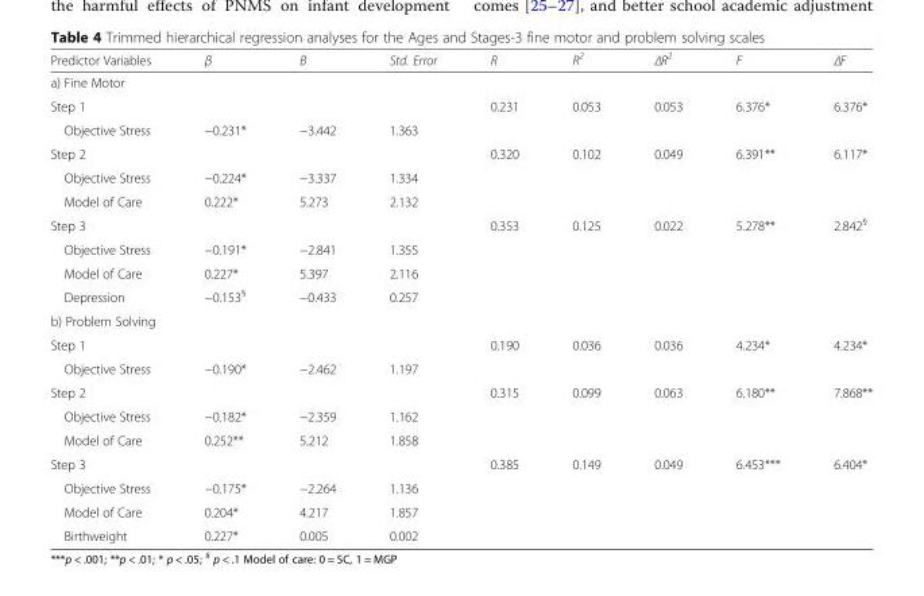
<table><thead><tr><td>Predictor Variables</td><td>β</td><td>B</td><td>Std. Error</td><td>R</td><td>R<sup>2</sup></td><td>ΔR2</td><td>F</td><td>ΔF</td></tr></thead><tbody><tr><td colspan="9">a) Fine Motor</td></tr><tr><td>Step 1</td><td></td><td></td><td></td><td>0.231</td><td>0.053</td><td>0.053</td><td>6.376*</td><td>6.376*</td></tr><tr><td>Objective Stress</td><td>−0.231*</td><td>−3.442</td><td>1.363</td><td></td><td></td><td></td><td></td><td></td></tr><tr><td>Step 2</td><td></td><td></td><td></td><td>0.320</td><td>0.102</td><td>0.049</td><td>6.391**</td><td>6.117*</td></tr><tr><td>Objective Stress</td><td>−0.224*</td><td>−3.337</td><td>1.334</td><td></td><td></td><td></td><td></td><td></td></tr><tr><td>Model of Care</td><td>0.222*</td><td>5.273</td><td>2.132</td><td></td><td></td><td></td><td></td><td></td></tr><tr><td>Step 3</td><td></td><td></td><td></td><td>0.353</td><td>0.125</td><td>0.022</td><td>5.278**</td><td>2.842<sup>§</sup></td></tr><tr><td>Objective Stress</td><td>−0.191*</td><td>−2.841</td><td>1.355</td><td></td><td></td><td></td><td></td><td></td></tr><tr><td>Model of Care</td><td>0.227*</td><td>5.397</td><td>2.116</td><td></td><td></td><td></td><td></td><td></td></tr><tr><td>Depression</td><td>−0.153<sup>§</sup></td><td>−0.433</td><td>0.257</td><td></td><td></td><td></td><td></td><td></td></tr><tr><td colspan="9">b) Problem Solving</td></tr><tr><td>Step 1</td><td></td><td></td><td></td><td>0.190</td><td>0.036</td><td>0.036</td><td>4.234*</td><td>4.234*</td></tr><tr><td>Objective Stress</td><td>−0.190*</td><td>−2.462</td><td>1.197</td><td></td><td></td><td></td><td></td><td></td></tr><tr><td>Step 2</td><td></td><td></td><td></td><td>0.315</td><td>0.099</td><td>0.063</td><td>6.180**</td><td>7.868**</td></tr><tr><td>Objective Stress</td><td>−0.182*</td><td>−2.359</td><td>1.162</td><td></td><td></td><td></td><td></td><td></td></tr><tr><td>Model of Care</td><td>0.252**</td><td>5.212</td><td>1.858</td><td></td><td></td><td></td><td></td><td></td></tr><tr><td>Step 3</td><td></td><td></td><td></td><td>0.385</td><td>0.149</td><td>0.049</td><td>6.453***</td><td>6.404*</td></tr><tr><td>Objective Stress</td><td>−0.175*</td><td>−2.264</td><td>1.136</td><td></td><td></td><td></td><td></td><td></td></tr><tr><td>Model of Care</td><td>0.204*</td><td>4.217</td><td>1.857</td><td></td><td></td><td></td><td></td><td></td></tr><tr><td>Birthweight</td><td>0.227*</td><td>0.005</td><td>0.002</td><td></td><td></td><td></td><td></td><td></td></tr></tbody></table>